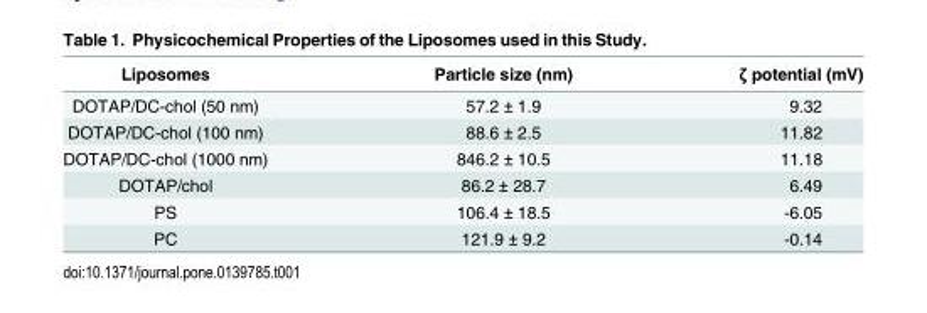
<table><thead><tr><td>Liposomes</td><td>Particle size (nm)</td><td>ζ potential (mV)</td></tr></thead><tbody><tr><td>DOTAP/DC-chol (50 nm)</td><td>57.2 ± 1.9</td><td>9.32</td></tr><tr><td>DOTAP/DC-chol (100 nm)</td><td>88.6 ± 2.5</td><td>11.82</td></tr><tr><td>DOTAP/DC-chol (1000 nm)</td><td>846.2 ± 10.5</td><td>11.18</td></tr><tr><td>DOTAP/chol</td><td>86.2 ± 28.7</td><td>6.49</td></tr><tr><td>PS</td><td>106.4 ± 18.5</td><td>-6.05</td></tr><tr><td>PC</td><td>121.9 ± 9.2</td><td>-0.14</td></tr></tbody></table>